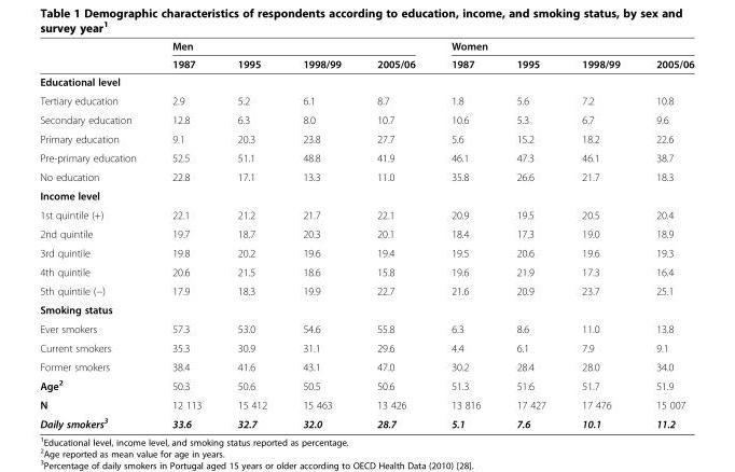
<table><thead><tr><td rowspan="2"></td><td colspan="4">Men</td><td colspan="4">Women</td></tr><tr><td>1987</td><td>1995</td><td>1998/99</td><td>2005/06</td><td>1987</td><td>1995</td><td>1998/99</td><td>2005/06</td></tr></thead><tbody><tr><td colspan="9">Educational level</td></tr><tr><td>Tertiary education</td><td>2.9</td><td>5.2</td><td>6.1</td><td>8.7</td><td>1.8</td><td>5.6</td><td>7.2</td><td>10.8</td></tr><tr><td>Secondary education</td><td>12.8</td><td>6.3</td><td>8.0</td><td>10.7</td><td>10.6</td><td>5.3</td><td>6.7</td><td>9.6</td></tr><tr><td>Primary education</td><td>9.1</td><td>20.3</td><td>23.8</td><td>27.7</td><td>5.6</td><td>15.2</td><td>18.2</td><td>22.6</td></tr><tr><td>Pre-primary education</td><td>52.5</td><td>51.1</td><td>48.8</td><td>41.9</td><td>46.1</td><td>47.3</td><td>46.1</td><td>38.7</td></tr><tr><td>No education</td><td>22.8</td><td>17.1</td><td>13.3</td><td>11.0</td><td>35.8</td><td>26.6</td><td>21.7</td><td>18.3</td></tr><tr><td colspan="9">Income level</td></tr><tr><td>1st quintile (+)</td><td>22.1</td><td>21.2</td><td>21.7</td><td>22.1</td><td>20.9</td><td>19.5</td><td>20.5</td><td>20.4</td></tr><tr><td>2nd quintile</td><td>19.7</td><td>18.7</td><td>20.3</td><td>20.1</td><td>18.4</td><td>17.3</td><td>19.0</td><td>18.9</td></tr><tr><td>3rd quintile</td><td>19.8</td><td>20.2</td><td>19.6</td><td>19.4</td><td>19.5</td><td>20.6</td><td>19.6</td><td>19.3</td></tr><tr><td>4th quintile</td><td>20.6</td><td>21.5</td><td>18.6</td><td>15.8</td><td>19.6</td><td>21.9</td><td>17.3</td><td>16.4</td></tr><tr><td>5th quintile (−)</td><td>17.9</td><td>18.3</td><td>19.9</td><td>22.7</td><td>21.6</td><td>20.9</td><td>23.7</td><td>25.1</td></tr><tr><td colspan="9">Smoking status</td></tr><tr><td>Ever smokers</td><td>57.3</td><td>53.0</td><td>54.6</td><td>55.8</td><td>6.3</td><td>8.6</td><td>11.0</td><td>13.8</td></tr><tr><td>Current smokers</td><td>35.3</td><td>30.9</td><td>31.1</td><td>29.6</td><td>4.4</td><td>6.1</td><td>7.9</td><td>9.1</td></tr><tr><td>Former smokers</td><td>38.4</td><td>41.6</td><td>43.1</td><td>47.0</td><td>30.2</td><td>28.4</td><td>28.0</td><td>34.0</td></tr><tr><td>Age<sup>2</sup></td><td>50.3</td><td>50.6</td><td>50.5</td><td>50.6</td><td>51.3</td><td>51.6</td><td>51.7</td><td>51.9</td></tr><tr><td>N</td><td>12 113</td><td>15 412</td><td>15 463</td><td>13 426</td><td>13 816</td><td>17 427</td><td>17 476</td><td>15 007</td></tr><tr><td>Daily smokers<sup>3</sup></td><td>33.6</td><td>32.7</td><td>32.0</td><td>28.7</td><td>5.1</td><td>7.6</td><td>10.1</td><td>11.2</td></tr></tbody></table>